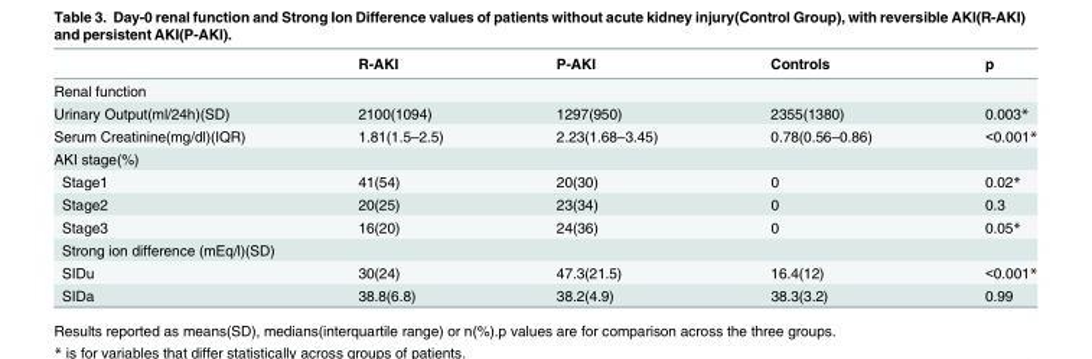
<table><thead><tr><td></td><td>R-AKI</td><td>P-AKI</td><td>Controls</td><td>p</td></tr></thead><tbody><tr><td colspan="5">Renal function</td></tr><tr><td>Urinary Output(ml/24h)(SD)</td><td>2100(1094)</td><td>1297(950)</td><td>2355(1380)</td><td>0.003*</td></tr><tr><td>Serum Creatinine(mg/dl)(IQR)</td><td>1.81(1.5–2.5)</td><td>2.23(1.68–3.45)</td><td>0.78(0.56–0.86)</td><td>&lt;0.001*</td></tr><tr><td colspan="5">AKI stage(%)</td></tr><tr><td>Stage1</td><td>41(54)</td><td>20(30)</td><td>0</td><td>0.02*</td></tr><tr><td>Stage2</td><td>20(25)</td><td>23(34)</td><td>0</td><td>0.3</td></tr><tr><td>Stage3</td><td>16(20)</td><td>24(36)</td><td>0</td><td>0.05*</td></tr><tr><td colspan="5">Strong ion difference (mEq/l)(SD)</td></tr><tr><td>SIDu</td><td>30(24)</td><td>47.3(21.5)</td><td>16.4(12)</td><td>&lt;0.001*</td></tr><tr><td>SIDa</td><td>38.8(6.8)</td><td>38.2(4.9)</td><td>38.3(3.2)</td><td>0.99</td></tr></tbody></table>